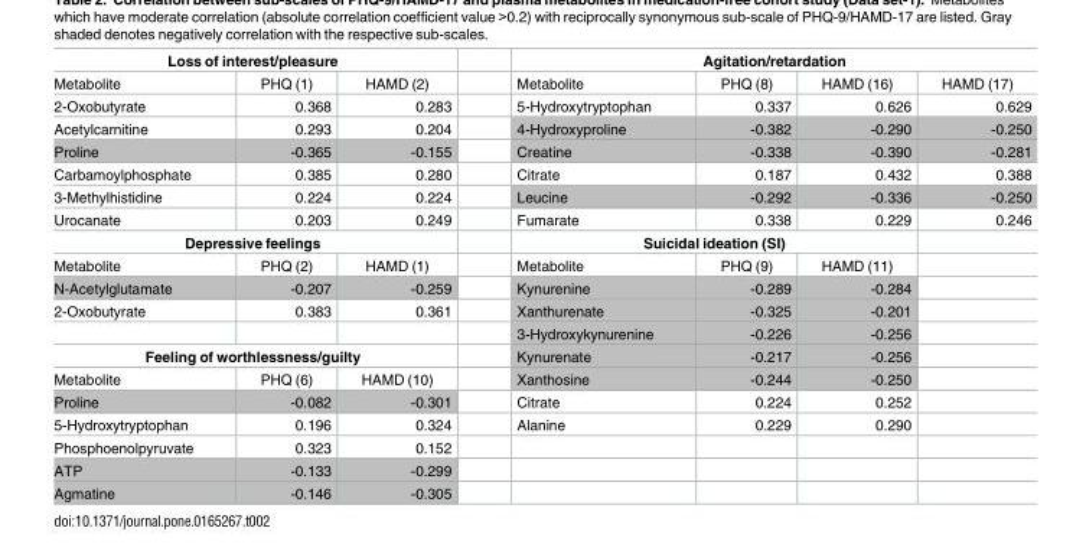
<table><tbody><tr><td colspan="3">Loss of interest/pleasure</td><td colspan="4">Agitation/retardation</td></tr><tr><td>Metabolite</td><td>PHQ (1)</td><td>HAMD (2)</td><td>Metabolite</td><td>PHQ (8)</td><td>HAMD (16)</td><td>HAMD (17)</td></tr><tr><td>2-Oxobutyrate</td><td>0.368</td><td>0.283</td><td>5-Hydroxytryptophan</td><td>0.337</td><td>0.626</td><td>0.629</td></tr><tr><td>Acetylcarnitine</td><td>0.293</td><td>0.204</td><td>4-Hydroxyproline</td><td>-0.382</td><td>-0.290</td><td>-0.250</td></tr><tr><td>Proline</td><td>-0.365</td><td>-0.155</td><td>Creatine</td><td>-0.338</td><td>-0.390</td><td>-0.281</td></tr><tr><td>Carbamoylphosphate</td><td>0.385</td><td>0.280</td><td>Citrate</td><td>0.187</td><td>0.432</td><td>0.388</td></tr><tr><td>3-Methylhistidine</td><td>0.224</td><td>0.224</td><td>Leucine</td><td>-0.292</td><td>-0.336</td><td>-0.250</td></tr><tr><td>Urocanate</td><td>0.203</td><td>0.249</td><td>Fumarate</td><td>0.338</td><td>0.229</td><td>0.246</td></tr><tr><td colspan="3">Depressive feelings</td><td colspan="3">Suicidal ideation (SI)</td><td></td></tr><tr><td>Metabolite</td><td>PHQ (2)</td><td>HAMD (1)</td><td>Metabolite</td><td>PHQ (9)</td><td>HAMD (11)</td><td></td></tr><tr><td>N-Acetylglutamate</td><td>-0.207</td><td>-0.259</td><td>Kynurenine</td><td>-0.289</td><td>-0.284</td><td></td></tr><tr><td rowspan="2">2-Oxobutyrate</td><td>0.383</td><td>0.361</td><td>Xanthurenate</td><td>-0.325</td><td>-0.201</td><td></td></tr><tr><td></td><td></td><td>3-Hydroxykynurenine</td><td>-0.226</td><td>-0.256</td><td></td></tr><tr><td colspan="3">Feeling of worthlessness/guilty</td><td>Kynurenate</td><td>-0.217</td><td>-0.256</td><td></td></tr><tr><td>Metabolite</td><td>PHQ (6)</td><td>HAMD (10)</td><td>Xanthosine</td><td>-0.244</td><td>-0.250</td><td></td></tr><tr><td>Proline</td><td>-0.082</td><td>-0.301</td><td>Citrate</td><td>0.224</td><td>0.252</td><td></td></tr><tr><td>5-Hydroxytryptophan</td><td>0.196</td><td>0.324</td><td>Alanine</td><td>0.229</td><td>0.290</td><td></td></tr><tr><td>Phosphoenolpyruvate</td><td>0.323</td><td>0.152</td><td></td><td></td><td></td><td></td></tr><tr><td>ATP</td><td>-0.133</td><td>-0.299</td><td></td><td></td><td></td><td></td></tr><tr><td>Agmatine</td><td>-0.146</td><td>-0.305</td><td></td><td></td><td></td><td></td></tr></tbody></table>